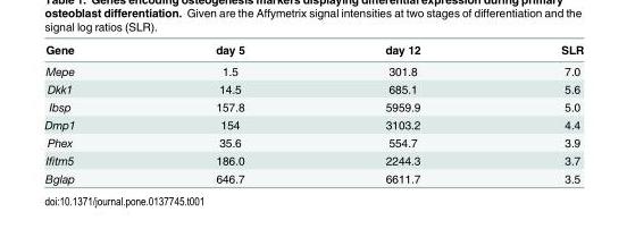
<table><thead><tr><td>Gene</td><td>day 5</td><td>day 12</td><td>SLR</td></tr></thead><tbody><tr><td>Mepe</td><td>1.5</td><td>301.8</td><td>7.0</td></tr><tr><td>Dkk1</td><td>14.5</td><td>685.1</td><td>5.6</td></tr><tr><td>Ibsp</td><td>157.8</td><td>5959.9</td><td>5.0</td></tr><tr><td>Dmp1</td><td>154</td><td>3103.2</td><td>4.4</td></tr><tr><td>Phex</td><td>35.6</td><td>554.7</td><td>3.9</td></tr><tr><td>Ifitm5</td><td>186.0</td><td>2244.3</td><td>3.7</td></tr><tr><td>Bglap</td><td>646.7</td><td>6611.7</td><td>3.5</td></tr></tbody></table>